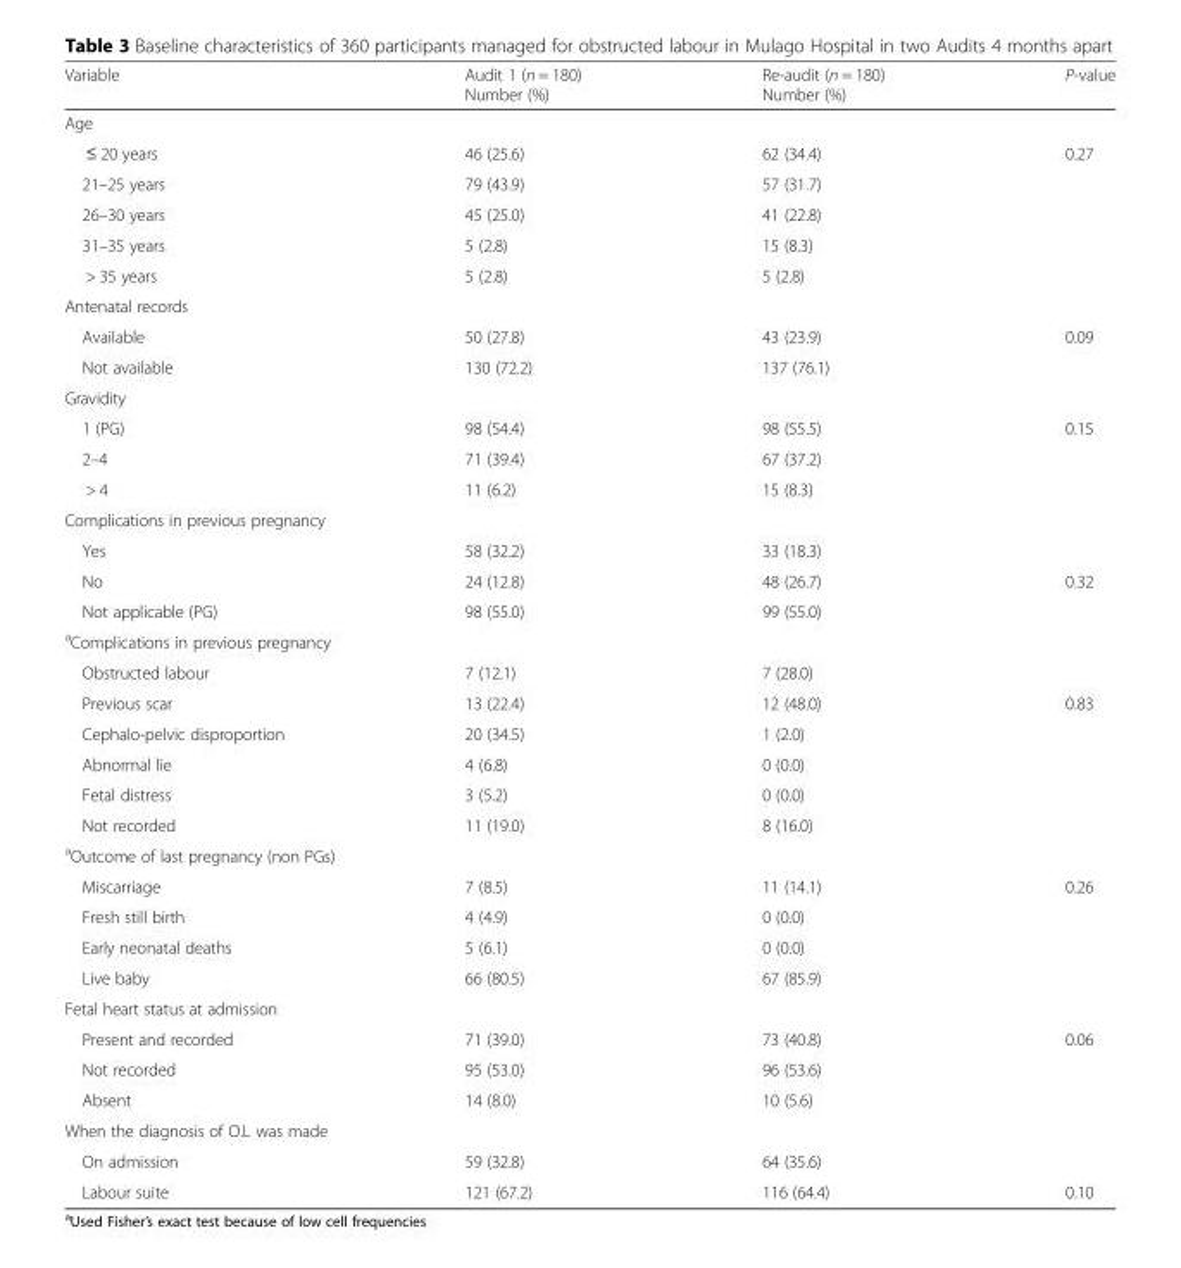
<table><thead><tr><td>Variable</td><td>Audit 1 (n = 180) Number (%)</td><td>Re-audit (n = 180) Number (%)</td><td>P-value</td></tr></thead><tbody><tr><td colspan="4">Age</td></tr><tr><td>≤ 20 years</td><td>46 (25.6)</td><td>62 (34.4)</td><td>0.27</td></tr><tr><td>21–25 years</td><td>79 (43.9)</td><td>57 (31.7)</td><td></td></tr><tr><td>26–30 years</td><td>45 (25.0)</td><td>41 (22.8)</td><td></td></tr><tr><td>31–35 years</td><td>5 (2.8)</td><td>15 (8.3)</td><td></td></tr><tr><td>&gt; 35 years</td><td>5 (2.8)</td><td>5 (2.8)</td><td></td></tr><tr><td colspan="4">Antenatal records</td></tr><tr><td>Available</td><td>50 (27.8)</td><td>43 (23.9)</td><td>0.09</td></tr><tr><td>Not available</td><td>130 (72.2)</td><td>137 (76.1)</td><td></td></tr><tr><td colspan="4">Gravidity</td></tr><tr><td>1 (PG)</td><td>98 (54.4)</td><td>98 (55.5)</td><td>0.15</td></tr><tr><td>2–4</td><td>71 (39.4)</td><td>67 (37.2)</td><td></td></tr><tr><td>&gt; 4</td><td>11 (6.2)</td><td>15 (8.3)</td><td></td></tr><tr><td colspan="4">Complications in previous pregnancy</td></tr><tr><td>Yes</td><td>58 (32.2)</td><td>33 (18.3)</td><td></td></tr><tr><td>No</td><td>24 (12.8)</td><td>48 (26.7)</td><td>0.32</td></tr><tr><td>Not applicable (PG)</td><td>98 (55.0)</td><td>99 (55.0)</td><td></td></tr><tr><td colspan="4"><sup>a</sup>Complications in previous pregnancy</td></tr><tr><td>Obstructed labour</td><td>7 (12.1)</td><td>7 (28.0)</td><td></td></tr><tr><td>Previous scar</td><td>13 (22.4)</td><td>12 (48.0)</td><td>0.83</td></tr><tr><td>Cephalo-pelvic disproportion</td><td>20 (34.5)</td><td>1 (2.0)</td><td></td></tr><tr><td>Abnormal lie</td><td>4 (6.8)</td><td>0 (0.0)</td><td></td></tr><tr><td>Fetal distress</td><td>3 (5.2)</td><td>0 (0.0)</td><td></td></tr><tr><td>Not recorded</td><td>11 (19.0)</td><td>8 (16.0)</td><td></td></tr><tr><td colspan="4"><sup>a</sup>Outcome of last pregnancy (non PGs)</td></tr><tr><td>Miscarriage</td><td>7 (8.5)</td><td>11 (14.1)</td><td>0.26</td></tr><tr><td>Fresh still birth</td><td>4 (4.9)</td><td>0 (0.0)</td><td></td></tr><tr><td>Early neonatal deaths</td><td>5 (6.1)</td><td>0 (0.0)</td><td></td></tr><tr><td>Live baby</td><td>66 (80.5)</td><td>67 (85.9)</td><td></td></tr><tr><td colspan="4">Fetal heart status at admission</td></tr><tr><td>Present and recorded</td><td>71 (39.0)</td><td>73 (40.8)</td><td>0.06</td></tr><tr><td>Not recorded</td><td>95 (53.0)</td><td>96 (53.6)</td><td></td></tr><tr><td>Absent</td><td>14 (8.0)</td><td>10 (5.6)</td><td></td></tr><tr><td colspan="4">When the diagnosis of O.L was made</td></tr><tr><td>On admission</td><td>59 (32.8)</td><td>64 (35.6)</td><td></td></tr><tr><td>Labour suite</td><td>121 (67.2)</td><td>116 (64.4)</td><td>0.10</td></tr></tbody></table>